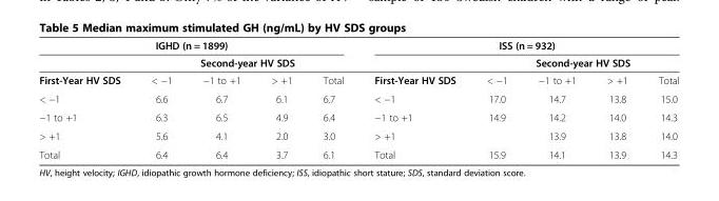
<table><thead><tr><td colspan="5">IGHD (n = 1899)</td><td colspan="5">ISS (n = 932)</td></tr><tr><td rowspan="2">First-Year HV SDS</td><td colspan="4">Second-year HV SDS</td><td rowspan="2">First-Year HV SDS</td><td colspan="4">Second-year HV SDS</td></tr><tr><td>&lt; −1</td><td>−1 to +1</td><td>&gt; +1</td><td>Total</td><td>&lt; −1</td><td>−1 to +1</td><td>&gt; +1</td><td>Total</td></tr></thead><tbody><tr><td>&lt; −1</td><td>6.6</td><td>6.7</td><td>6.1</td><td>6.7</td><td>&lt; −1</td><td>17.0</td><td>14.7</td><td>13.8</td><td>15.0</td></tr><tr><td>−1 to +1</td><td>6.3</td><td>6.5</td><td>4.9</td><td>6.4</td><td>−1 to +1</td><td>14.9</td><td>14.2</td><td>14.0</td><td>14.3</td></tr><tr><td>&gt; +1</td><td>5.6</td><td>4.1</td><td>2.0</td><td>3.0</td><td>&gt; +1</td><td></td><td>13.9</td><td>13.8</td><td>14.0</td></tr><tr><td>Total</td><td>6.4</td><td>6.4</td><td>3.7</td><td>6.1</td><td>Total</td><td>15.9</td><td>14.1</td><td>13.9</td><td>14.3</td></tr></tbody></table>